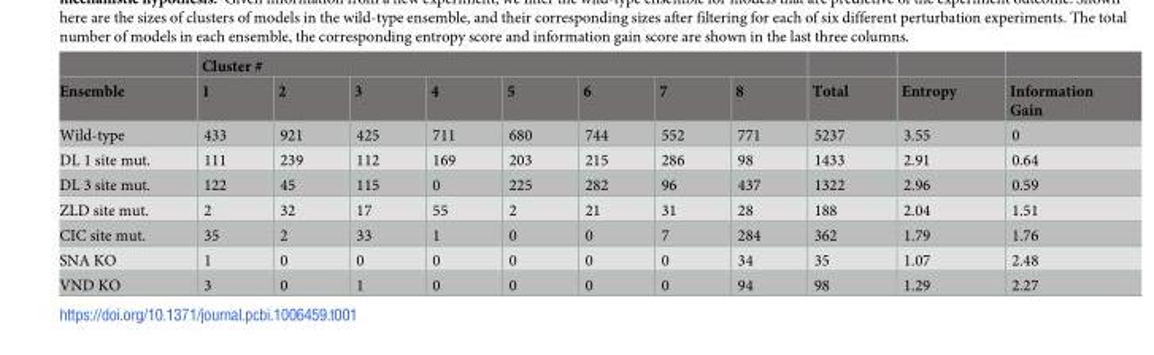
<table><thead><tr><td rowspan="2">Ensemble</td><td colspan="8">Cluster #</td><td rowspan="2">Total</td><td rowspan="2">Entropy</td><td rowspan="2">Information Gain</td></tr><tr><td>1</td><td>2</td><td>3</td><td>4</td><td>5</td><td>6</td><td>7</td><td>8</td></tr></thead><tbody><tr><td>Wild-type</td><td>433</td><td>921</td><td>425</td><td>711</td><td>680</td><td>744</td><td>552</td><td>771</td><td>5237</td><td>3.55</td><td>0</td></tr><tr><td>DL 1 site mut.</td><td>111</td><td>239</td><td>112</td><td>169</td><td>203</td><td>215</td><td>286</td><td>98</td><td>1433</td><td>2.91</td><td>0.64</td></tr><tr><td>DL 3 site mut.</td><td>122</td><td>45</td><td>115</td><td>0</td><td>225</td><td>282</td><td>96</td><td>437</td><td>1322</td><td>2.96</td><td>0.59</td></tr><tr><td>ZLD site mut.</td><td>2</td><td>32</td><td>17</td><td>55</td><td>2</td><td>21</td><td>31</td><td>28</td><td>188</td><td>2.04</td><td>1.51</td></tr><tr><td>CIC site mut.</td><td>35</td><td>2</td><td>33</td><td>1</td><td>0</td><td>0</td><td>7</td><td>284</td><td>362</td><td>1.79</td><td>1.76</td></tr><tr><td>SNA KO</td><td>1</td><td>0</td><td>0</td><td>0</td><td>0</td><td>0</td><td>0</td><td>34</td><td>35</td><td>1.07</td><td>2.48</td></tr><tr><td>VND KO</td><td>3</td><td>0</td><td>1</td><td>0</td><td>0</td><td>0</td><td>0</td><td>94</td><td>98</td><td>1.29</td><td>2.27</td></tr></tbody></table>